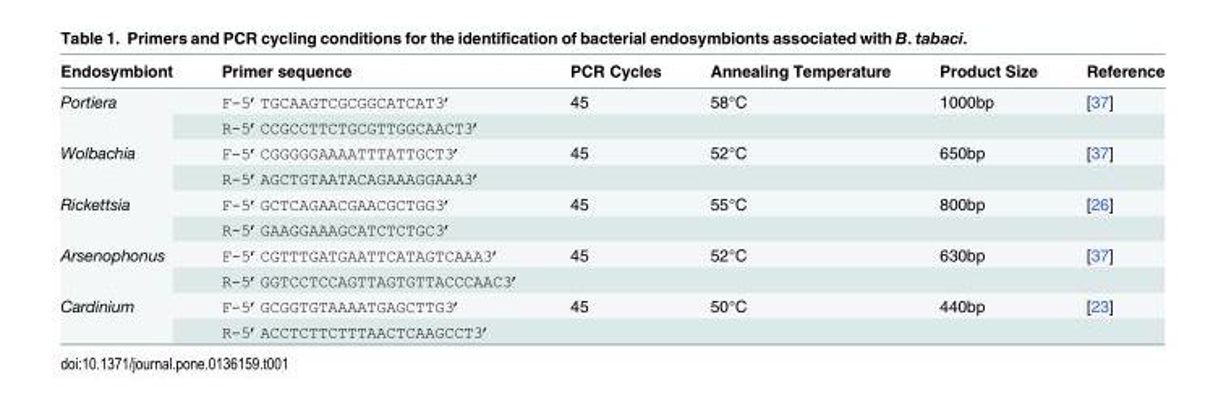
<table><thead><tr><td>Endosymbiont</td><td>Primer sequence</td><td>PCR Cycles</td><td>Annealing Temperature</td><td>Product Size</td><td>Reference</td></tr></thead><tbody><tr><td rowspan="2">Portiera</td><td>F-5’TGCAAGTCGCGGCATCAT3’</td><td>45</td><td>58°C</td><td>1000bp</td><td>[37]</td></tr><tr><td>R-5’CCGCCTTCTGCGTTGGCAACT3’</td><td></td><td></td><td></td><td></td></tr><tr><td rowspan="2">Wolbachia</td><td>F-5’CGGGGGAAAATTTATTGCT3’</td><td>45</td><td>52°C</td><td>650bp</td><td>[37]</td></tr><tr><td>R-5’AGCTGTAATACAGAAAGGAAA3’</td><td></td><td></td><td></td><td></td></tr><tr><td rowspan="2">Rickettsia</td><td>F-5’GCTCAGAACGAACGCTGG3’</td><td>45</td><td>55°C</td><td>800bp</td><td>[26]</td></tr><tr><td>R-5’GAAGGAAAGCATCTCTGC3’</td><td></td><td></td><td></td><td></td></tr><tr><td rowspan="2">Arsenophonus</td><td>F-5’CGTTTGATGAATTCATAGTCAAA3’</td><td>45</td><td>52°C</td><td>630bp</td><td>[37]</td></tr><tr><td>R-5’GGTCCTCCAGTTAGTGTTACCCAAC3’</td><td></td><td></td><td></td><td></td></tr><tr><td rowspan="2">Cardinium</td><td>F-5’GCGGTGTAAAATGAGCTTG3’</td><td>45</td><td>50°C</td><td>440bp</td><td>[23]</td></tr><tr><td>R-5’ACCTCTTCTTTAACTCAAGCCT3’</td><td></td><td></td><td></td><td></td></tr></tbody></table>